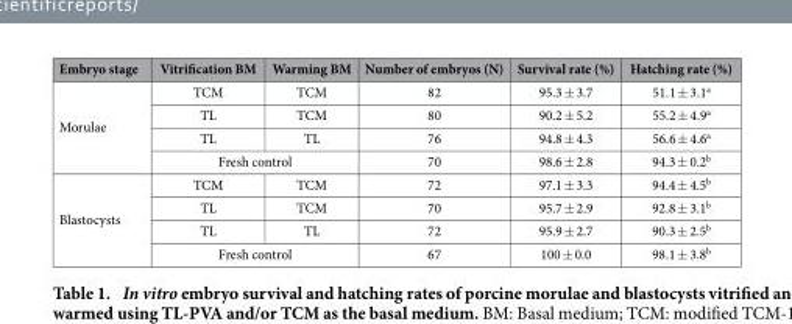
<table><thead><tr><td>Embryo stage</td><td>Vitrification BM</td><td>Warming BM</td><td>Number of embryos (N)</td><td>Survival rate (%)</td><td>Hatching rate (%)</td></tr></thead><tbody><tr><td rowspan="4">Morulae</td><td>TCM</td><td>TCM</td><td>82</td><td>95.3 ± 3.7</td><td>51.1 ± 3.1<sup>a</sup></td></tr><tr><td>TL</td><td>TCM</td><td>80</td><td>90.2 ± 5.2</td><td>55.2 ± 4.9<sup>a</sup></td></tr><tr><td>TL</td><td>TL</td><td>76</td><td>94.8 ± 4.3</td><td>56.6 ± 4.6<sup>a</sup></td></tr><tr><td colspan="2">Fresh control</td><td>70</td><td>98.6 ± 2.8</td><td>94.3 ± 0.2<sup>b</sup></td></tr><tr><td rowspan="4">Blastocysts</td><td>TCM</td><td>TCM</td><td>72</td><td>97.1 ± 3.3</td><td>94.4 ± 4.5<sup>b</sup></td></tr><tr><td>TL</td><td>TCM</td><td>70</td><td>95.7 ± 2.9</td><td>92.8 ± 3.1<sup>b</sup></td></tr><tr><td>TL</td><td>TL</td><td>72</td><td>95.9 ± 2.7</td><td>90.3 ± 2.5<sup>b</sup></td></tr><tr><td colspan="2">Fresh control</td><td>67</td><td>100 ± 0.0</td><td>98.1 ± 3.8<sup>b</sup></td></tr></tbody></table>